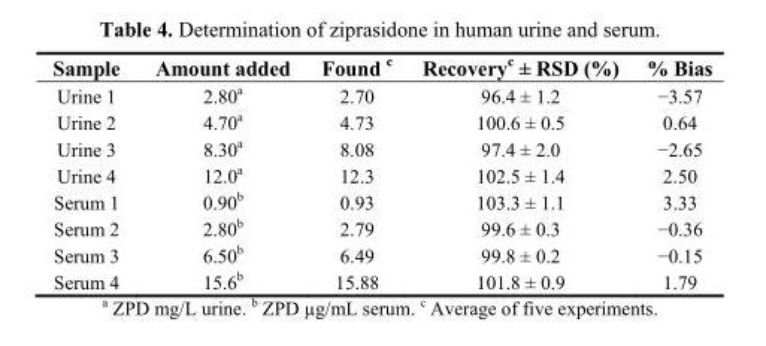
<table><thead><tr><td>Sample</td><td>Amount added</td><td>Found <sup>c</sup></td><td>Recovery<sup>c</sup> ± RSD (%)</td><td>% Bias</td></tr></thead><tbody><tr><td>Urine 1</td><td>2.80<sup>a</sup></td><td>2.70</td><td>96.4 ± 1.2</td><td>−3.57</td></tr><tr><td>Urine 2</td><td>4.70<sup>a</sup></td><td>4.73</td><td>100.6 ± 0.5</td><td>0.64</td></tr><tr><td>Urine 3</td><td>8.30<sup>a</sup></td><td>8.08</td><td>97.4 ± 2.0</td><td>−2.65</td></tr><tr><td>Urine 4</td><td>12.0<sup>a</sup></td><td>12.3</td><td>102.5 ± 1.4</td><td>2.50</td></tr><tr><td>Serum 1</td><td>0.90<sup>b</sup></td><td>0.93</td><td>103.3 ± 1.1</td><td>3.33</td></tr><tr><td>Serum 2</td><td>2.80<sup>b</sup></td><td>2.79</td><td>99.6 ± 0.3</td><td>−0.36</td></tr><tr><td>Serum 3</td><td>6.50<sup>b</sup></td><td>6.49</td><td>99.8 ± 0.2</td><td>−0.15</td></tr><tr><td>Serum 4</td><td>15.6<sup>b</sup></td><td>15.88</td><td>101.8 ± 0.9</td><td>1.79</td></tr></tbody></table>